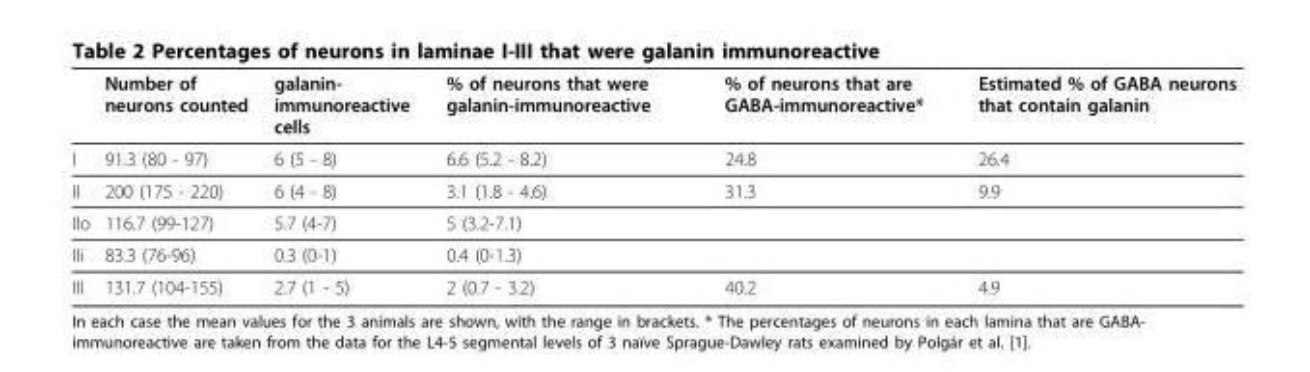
<table><thead><tr><td></td><td>Number of neurons counted</td><td>galanin- immunoreactive cells</td><td>% of neurons that were galanin-immunoreactive</td><td>% of neurons that are GABA-immunoreactive*</td><td>Estimated % of GABA neurons that contain galanin</td></tr></thead><tbody><tr><td>I</td><td>91.3 (80 - 97)</td><td>6 (5 - 8)</td><td>6.6 (5.2 - 8.2)</td><td>24.8</td><td>26.4</td></tr><tr><td>II</td><td>200 (175 - 220)</td><td>6 (4 - 8)</td><td>3.1 (1.8 - 4.6)</td><td>31.3</td><td>9.9</td></tr><tr><td>IIo</td><td>116.7 (99-127)</td><td>5.7 (4-7)</td><td>5 (3.2-7.1)</td><td></td><td></td></tr><tr><td>IIi</td><td>83.3 (76-96)</td><td>0.3 (0-1)</td><td>0.4 (0-1.3)</td><td></td><td></td></tr><tr><td>III</td><td>131.7 (104-155)</td><td>2.7 (1 - 5)</td><td>2 (0.7 - 3.2)</td><td>40.2</td><td>4.9</td></tr></tbody></table>